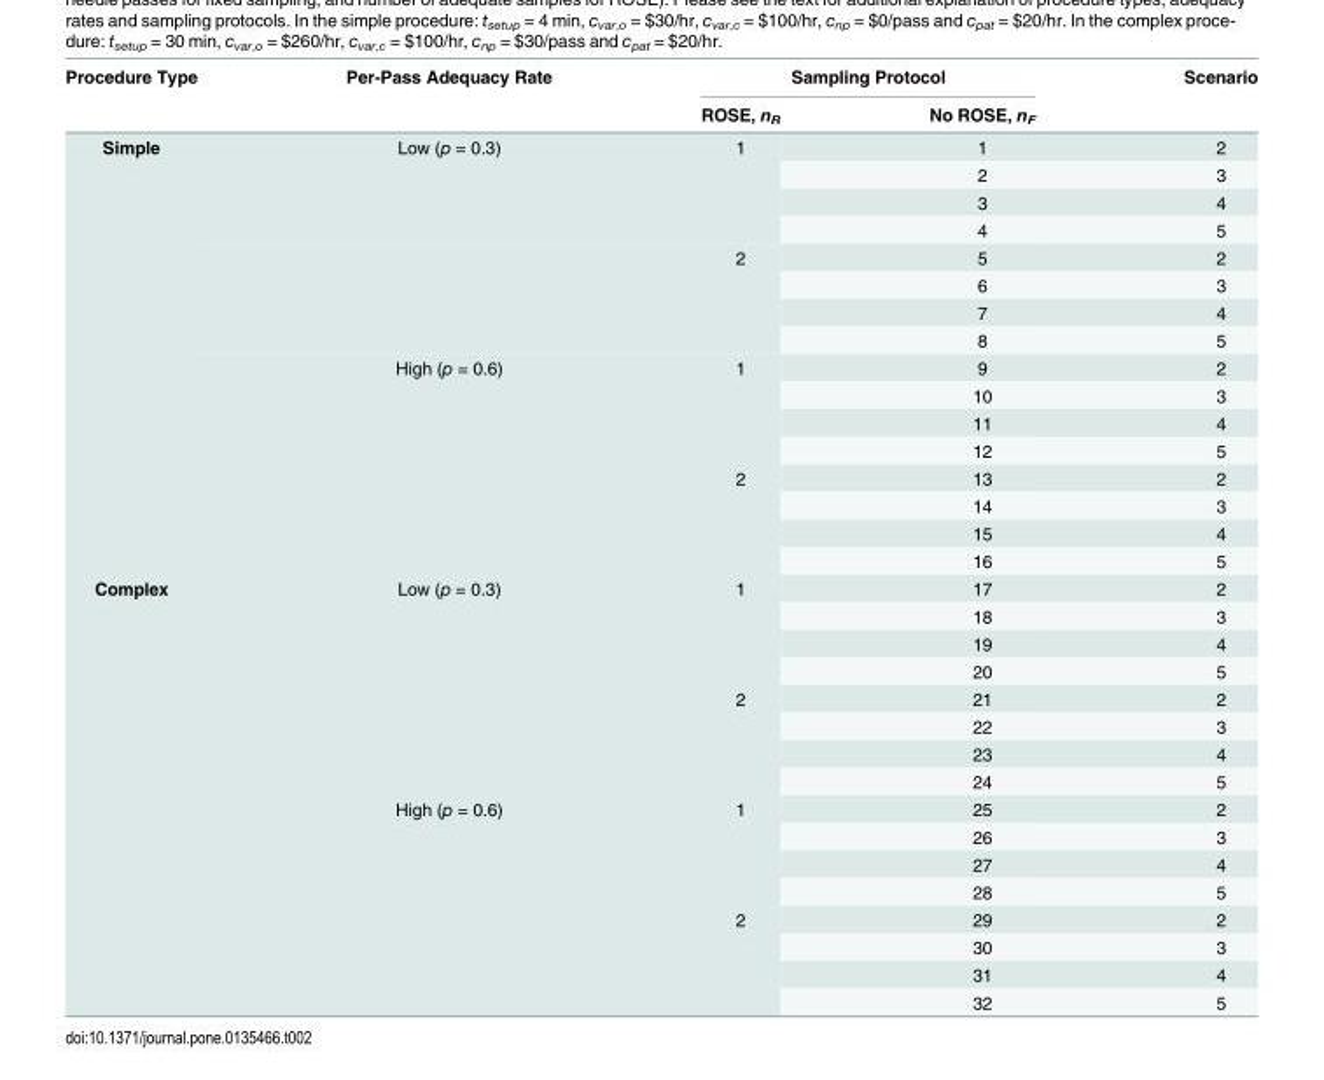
<table><thead><tr><td rowspan="2">Procedure Type</td><td rowspan="2">Per-Pass Adequacy Rate</td><td colspan="2">Sampling Protocol</td><td rowspan="2">Scenario</td></tr><tr><td>ROSE, n<sub>R</sub></td><td>No ROSE, n<sub>F</sub></td></tr></thead><tbody><tr><td rowspan="16">Simple</td><td rowspan="4">Low (p = 0.3)</td><td rowspan="4">1</td><td>1</td><td>2</td></tr><tr><td>2</td><td>3</td></tr><tr><td>3</td><td>4</td></tr><tr><td>4</td><td>5</td></tr><tr><td rowspan="4"></td><td rowspan="4">2</td><td>5</td><td>2</td></tr><tr><td>6</td><td>3</td></tr><tr><td>7</td><td>4</td></tr><tr><td>8</td><td>5</td></tr><tr><td rowspan="4">High (p = 0.6)</td><td rowspan="4">1</td><td>9</td><td>2</td></tr><tr><td>10</td><td>3</td></tr><tr><td>11</td><td>4</td></tr><tr><td>12</td><td>5</td></tr><tr><td rowspan="4"></td><td rowspan="4">2</td><td>13</td><td>2</td></tr><tr><td>14</td><td>3</td></tr><tr><td>15</td><td>4</td></tr><tr><td>16</td><td>5</td></tr><tr><td rowspan="16">Complex</td><td rowspan="4">Low (p = 0.3)</td><td rowspan="4">1</td><td>17</td><td>2</td></tr><tr><td>18</td><td>3</td></tr><tr><td>19</td><td>4</td></tr><tr><td>20</td><td>5</td></tr><tr><td rowspan="4"></td><td rowspan="4">2</td><td>21</td><td>2</td></tr><tr><td>22</td><td>3</td></tr><tr><td>23</td><td>4</td></tr><tr><td>24</td><td>5</td></tr><tr><td rowspan="4">High (p = 0.6)</td><td rowspan="4">1</td><td>25</td><td>2</td></tr><tr><td>26</td><td>3</td></tr><tr><td>27</td><td>4</td></tr><tr><td>28</td><td>5</td></tr><tr><td rowspan="4"></td><td rowspan="4">2</td><td>29</td><td>2</td></tr><tr><td>30</td><td>3</td></tr><tr><td>31</td><td>4</td></tr><tr><td>32</td><td>5</td></tr></tbody></table>